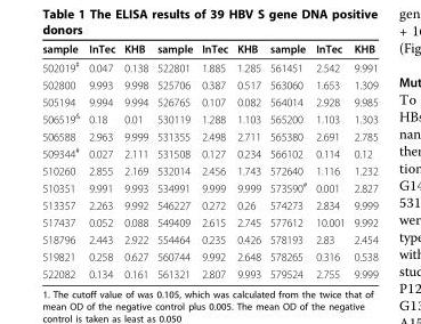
<table><thead><tr><td>sample</td><td>InTec</td><td>KHB</td><td>sample</td><td>InTec</td><td>KHB</td><td>sample</td><td>InTec</td><td>KHB</td></tr></thead><tbody><tr><td>502019<sup>#</sup></td><td>0.047</td><td>0.138</td><td>522801</td><td>1.885</td><td>1.285</td><td>561451</td><td>2.542</td><td>9.991</td></tr><tr><td>502800</td><td>9.993</td><td>9.998</td><td>525706</td><td>0.387</td><td>0.517</td><td>563060</td><td>1.653</td><td>1.309</td></tr><tr><td>505194</td><td>9.994</td><td>9.994</td><td>526765</td><td>0.107</td><td>0.082</td><td>564014</td><td>2.928</td><td>9.985</td></tr><tr><td>506519<sup>&amp;</sup></td><td>0.18</td><td>0.01</td><td>530119</td><td>1.288</td><td>1.103</td><td>565200</td><td>1.103</td><td>1.303</td></tr><tr><td>506588</td><td>2.963</td><td>9.999</td><td>531355</td><td>2.498</td><td>2.711</td><td>565380</td><td>2.691</td><td>2.785</td></tr><tr><td>509344<sup>#</sup></td><td>0.027</td><td>2.111</td><td>531508</td><td>0.127</td><td>0.234</td><td>566102</td><td>0.114</td><td>0.12</td></tr><tr><td>510260</td><td>2.855</td><td>2.169</td><td>532014</td><td>2.456</td><td>1.743</td><td>572640</td><td>1.116</td><td>1.232</td></tr><tr><td>510351</td><td>9.991</td><td>9.993</td><td>534991</td><td>9.999</td><td>9.999</td><td>573590<sup>#</sup></td><td>0.001</td><td>2.827</td></tr><tr><td>513357</td><td>2.263</td><td>9.992</td><td>546227</td><td>0.272</td><td>0.26</td><td>574273</td><td>2.834</td><td>9.999</td></tr><tr><td>517437</td><td>0.052</td><td>0.088</td><td>549409</td><td>2.615</td><td>2.745</td><td>577612</td><td>10.001</td><td>9.992</td></tr><tr><td>518796</td><td>2.443</td><td>2.922</td><td>554464</td><td>0.235</td><td>0.426</td><td>578193</td><td>2.83</td><td>2.454</td></tr><tr><td>519821</td><td>0.258</td><td>0.627</td><td>560744</td><td>9.992</td><td>2.648</td><td>578265</td><td>0.316</td><td>0.538</td></tr><tr><td>522082</td><td>0.134</td><td>0.161</td><td>561321</td><td>2.807</td><td>9.993</td><td>579524</td><td>2.755</td><td>9.999</td></tr></tbody></table>